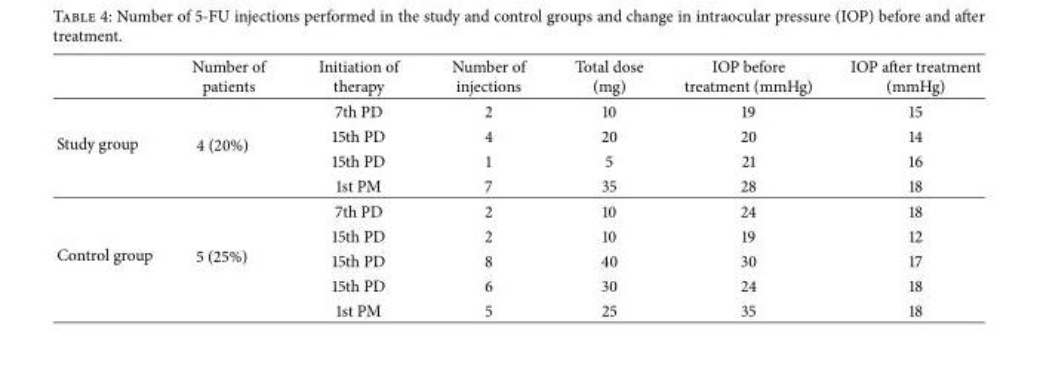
<table><thead><tr><td></td><td>Number of patients</td><td>Initiation of therapy</td><td>Number of injections</td><td>Total dose (mg)</td><td>IOP before treatment (mmHg)</td><td>IOP after treatment (mmHg)</td></tr></thead><tbody><tr><td rowspan="4">Study group</td><td rowspan="4">4 (20%)</td><td>7th PD</td><td>2</td><td>10</td><td>19</td><td>15</td></tr><tr><td>15th PD</td><td>4</td><td>20</td><td>20</td><td>14</td></tr><tr><td>15th PD</td><td>1</td><td>5</td><td>21</td><td>16</td></tr><tr><td>1st PM</td><td>7</td><td>35</td><td>28</td><td>18</td></tr><tr><td rowspan="5">Control group</td><td rowspan="5">5 (25%)</td><td>7th PD</td><td>2</td><td>10</td><td>24</td><td>18</td></tr><tr><td>15th PD</td><td>2</td><td>10</td><td>19</td><td>12</td></tr><tr><td>15th PD</td><td>8</td><td>40</td><td>30</td><td>17</td></tr><tr><td>15th PD</td><td>6</td><td>30</td><td>24</td><td>18</td></tr><tr><td>1st PM</td><td>5</td><td>25</td><td>35</td><td>18</td></tr></tbody></table>